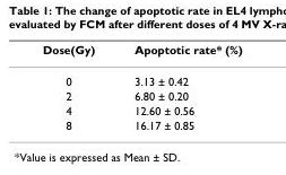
<table><thead><tr><td>Dose(Gy)</td><td>Apoptotic rate* (%)</td></tr></thead><tbody><tr><td>0</td><td>3.13 ± 0.42</td></tr><tr><td>2</td><td>6.80 ± 0.20</td></tr><tr><td>4</td><td>12.60 ± 0.56</td></tr><tr><td>8</td><td>16.17 ± 0.85</td></tr></tbody></table>